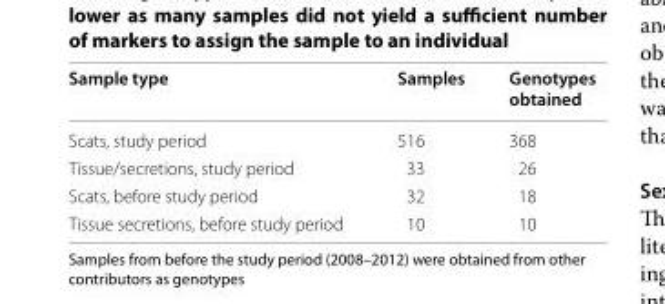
<table><thead><tr><td>Sample type</td><td>Samples</td><td>Genotypes obtained</td></tr></thead><tbody><tr><td>Scats, study period</td><td>516</td><td>368</td></tr><tr><td>Tissue/secretions, study period</td><td>33</td><td>26</td></tr><tr><td>Scats, before study period</td><td>32</td><td>18</td></tr><tr><td>Tissue secretions, before study period</td><td>10</td><td>10</td></tr></tbody></table>